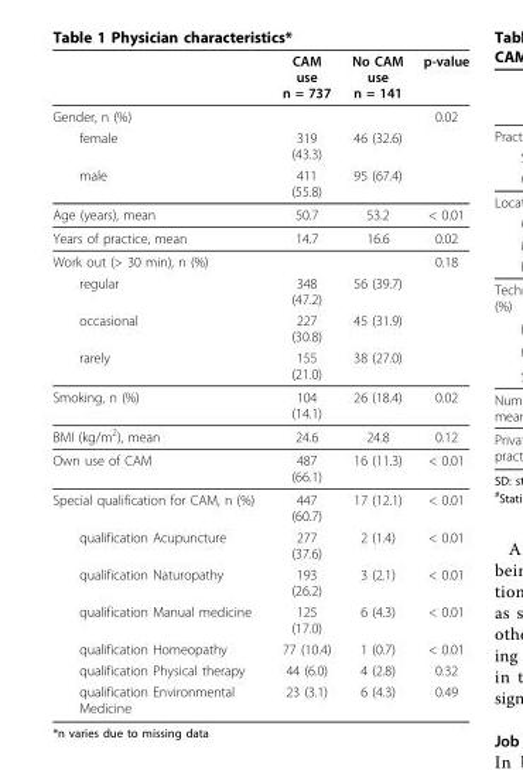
<table><thead><tr><td></td><td>CAM use n = 737</td><td>No CAM use n = 141</td><td>p-value</td></tr></thead><tbody><tr><td>Gender, n (%)</td><td></td><td></td><td>0.02</td></tr><tr><td>female</td><td>319 (43.3)</td><td>46 (32.6)</td><td></td></tr><tr><td>male</td><td>411 (55.8)</td><td>95 (67.4)</td><td></td></tr><tr><td>Age (years), mean</td><td>50.7</td><td>53.2</td><td>&lt; 0.01</td></tr><tr><td>Years of practice, mean</td><td>14.7</td><td>16.6</td><td>0.02</td></tr><tr><td>Work out (&gt; 30 min), n (%)</td><td></td><td></td><td>0.18</td></tr><tr><td>regular</td><td>348 (47.2)</td><td>56 (39.7)</td><td></td></tr><tr><td>occasional</td><td>227 (30.8)</td><td>45 (31.9)</td><td></td></tr><tr><td>rarely</td><td>155 (21.0)</td><td>38 (27.0)</td><td></td></tr><tr><td>Smoking, n (%)</td><td>104 (14.1)</td><td>26 (18.4)</td><td>0.02</td></tr><tr><td>BMI (kg/m<sup>2</sup>), mean</td><td>24.6</td><td>24.8</td><td>0.12</td></tr><tr><td>Own use of CAM</td><td>487 (66.1)</td><td>16 (11.3)</td><td>&lt; 0.01</td></tr><tr><td>Special qualification for CAM, n (%)</td><td>447 (60.7)</td><td>17 (12.1)</td><td>&lt; 0.01</td></tr><tr><td>qualification Acupuncture</td><td>277 (37.6)</td><td>2 (1.4)</td><td>&lt; 0.01</td></tr><tr><td>qualification Naturopathy</td><td>193 (26.2)</td><td>3 (2.1)</td><td>&lt; 0.01</td></tr><tr><td>qualification Manual medicine</td><td>125 (17.0)</td><td>6 (4.3)</td><td>&lt; 0.01</td></tr><tr><td>qualification Homeopathy</td><td>77 (10.4)</td><td>1 (0.7)</td><td>&lt; 0.01</td></tr><tr><td>qualification Physical therapy</td><td>44 (6.0)</td><td>4 (2.8)</td><td>0.32</td></tr><tr><td>qualification Environmental Medicine</td><td>23 (3.1)</td><td>6 (4.3)</td><td>0.49</td></tr></tbody></table>